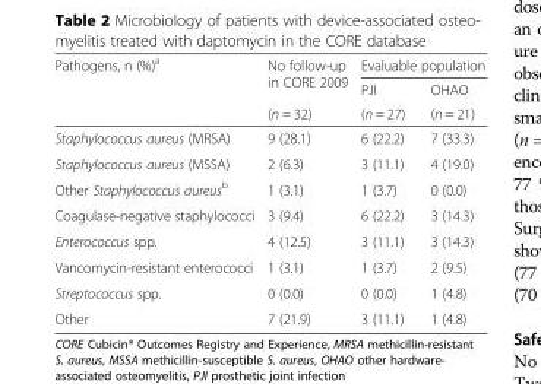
<table><thead><tr><td rowspan="3">Pathogens, n (%)<sup>a</sup></td><td rowspan="3">No follow-up in CORE 2009 (n = 32)</td><td colspan="2">Evaluable population</td></tr><tr><td rowspan="2">PJI (n = 27)</td><td rowspan="2">OHAO (n = 21)</td></tr><tr></tr></thead><tbody><tr><td>Staphylococcus aureus (MRSA)</td><td>9 (28.1)</td><td>6 (22.2)</td><td>7 (33.3)</td></tr><tr><td>Staphylococcus aureus (MSSA)</td><td>2 (6.3)</td><td>3 (11.1)</td><td>4 (19.0)</td></tr><tr><td>Other Staphylococcus aureus<sup>b</sup></td><td>1 (3.1)</td><td>1 (3.7)</td><td>0 (0.0)</td></tr><tr><td>Coagulase-negative staphylococci</td><td>3 (9.4)</td><td>6 (22.2)</td><td>3 (14.3)</td></tr><tr><td>Enterococcus spp.</td><td>4 (12.5)</td><td>3 (11.1)</td><td>3 (14.3)</td></tr><tr><td>Vancomycin-resistant enterococci</td><td>1 (3.1)</td><td>1 (3.7)</td><td>2 (9.5)</td></tr><tr><td>Streptococcus spp.</td><td>0 (0.0)</td><td>0 (0.0)</td><td>1 (4.8)</td></tr><tr><td>Other</td><td>7 (21.9)</td><td>3 (11.1)</td><td>1 (4.8)</td></tr></tbody></table>